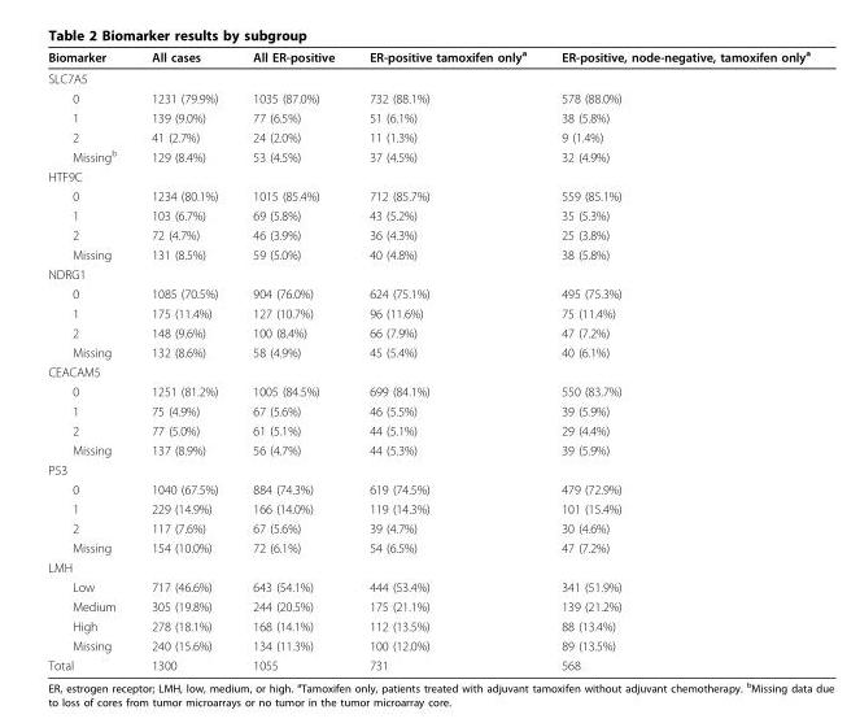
<table><thead><tr><td>Biomarker</td><td>All cases</td><td>All ER-positive</td><td>ER-positive tamoxifen only<sup>a</sup></td><td>ER-positive, node-negative, tamoxifen only<sup>a</sup></td></tr></thead><tbody><tr><td colspan="5">SLC7A5</td></tr><tr><td>0</td><td>1231 (79.9%)</td><td>1035 (87.0%)</td><td>732 (88.1%)</td><td>578 (88.0%)</td></tr><tr><td>1</td><td>139 (9.0%)</td><td>77 (6.5%)</td><td>51 (6.1%)</td><td>38 (5.8%)</td></tr><tr><td>2</td><td>41 (2.7%)</td><td>24 (2.0%)</td><td>11 (1.3%)</td><td>9 (1.4%)</td></tr><tr><td>Missing<sup>b</sup></td><td>129 (8.4%)</td><td>53 (4.5%)</td><td>37 (4.5%)</td><td>32 (4.9%)</td></tr><tr><td colspan="5">HTF9C</td></tr><tr><td>0</td><td>1234 (80.1%)</td><td>1015 (85.4%)</td><td>712 (85.7%)</td><td>559 (85.1%)</td></tr><tr><td>1</td><td>103 (6.7%)</td><td>69 (5.8%)</td><td>43 (5.2%)</td><td>35 (5.3%)</td></tr><tr><td>2</td><td>72 (4.7%)</td><td>46 (3.9%)</td><td>36 (4.3%)</td><td>25 (3.8%)</td></tr><tr><td>Missing</td><td>131 (8.5%)</td><td>59 (5.0%)</td><td>40 (4.8%)</td><td>38 (5.8%)</td></tr><tr><td colspan="5">NDRG1</td></tr><tr><td>0</td><td>1085 (70.5%)</td><td>904 (76.0%)</td><td>624 (75.1%)</td><td>495 (75.3%)</td></tr><tr><td>1</td><td>175 (11.4%)</td><td>127 (10.7%)</td><td>96 (11.6%)</td><td>75 (11.4%)</td></tr><tr><td>2</td><td>148 (9.6%)</td><td>100 (8.4%)</td><td>66 (7.9%)</td><td>47 (7.2%)</td></tr><tr><td>Missing</td><td>132 (8.6%)</td><td>58 (4.9%)</td><td>45 (5.4%)</td><td>40 (6.1%)</td></tr><tr><td colspan="5">CEACAM5</td></tr><tr><td>0</td><td>1251 (81.2%)</td><td>1005 (84.5%)</td><td>699 (84.1%)</td><td>550 (83.7%)</td></tr><tr><td>1</td><td>75 (4.9%)</td><td>67 (5.6%)</td><td>46 (5.5%)</td><td>39 (5.9%)</td></tr><tr><td>2</td><td>77 (5.0%)</td><td>61 (5.1%)</td><td>44 (5.1%)</td><td>29 (4.4%)</td></tr><tr><td>Missing</td><td>137 (8.9%)</td><td>56 (4.7%)</td><td>44 (5.3%)</td><td>39 (5.9%)</td></tr><tr><td colspan="5">P53</td></tr><tr><td>0</td><td>1040 (67.5%)</td><td>884 (74.3%)</td><td>619 (74.5%)</td><td>479 (72.9%)</td></tr><tr><td>1</td><td>229 (14.9%)</td><td>166 (14.0%)</td><td>119 (14.3%)</td><td>101 (15.4%)</td></tr><tr><td>2</td><td>117 (7.6%)</td><td>67 (5.6%)</td><td>39 (4.7%)</td><td>30 (4.6%)</td></tr><tr><td>Missing</td><td>154 (10.0%)</td><td>72 (6.1%)</td><td>54 (6.5%)</td><td>47 (7.2%)</td></tr><tr><td colspan="5">LMH</td></tr><tr><td>Low</td><td>717 (46.6%)</td><td>643 (54.1%)</td><td>444 (53.4%)</td><td>341 (51.9%)</td></tr><tr><td>Medium</td><td>305 (19.8%)</td><td>244 (20.5%)</td><td>175 (21.1%)</td><td>139 (21.2%)</td></tr><tr><td>High</td><td>278 (18.1%)</td><td>168 (14.1%)</td><td>112 (13.5%)</td><td>88 (13.4%)</td></tr><tr><td>Missing</td><td>240 (15.6%)</td><td>134 (11.3%)</td><td>100 (12.0%)</td><td>89 (13.5%)</td></tr><tr><td>Total</td><td>1300</td><td>1055</td><td>731</td><td>568</td></tr></tbody></table>